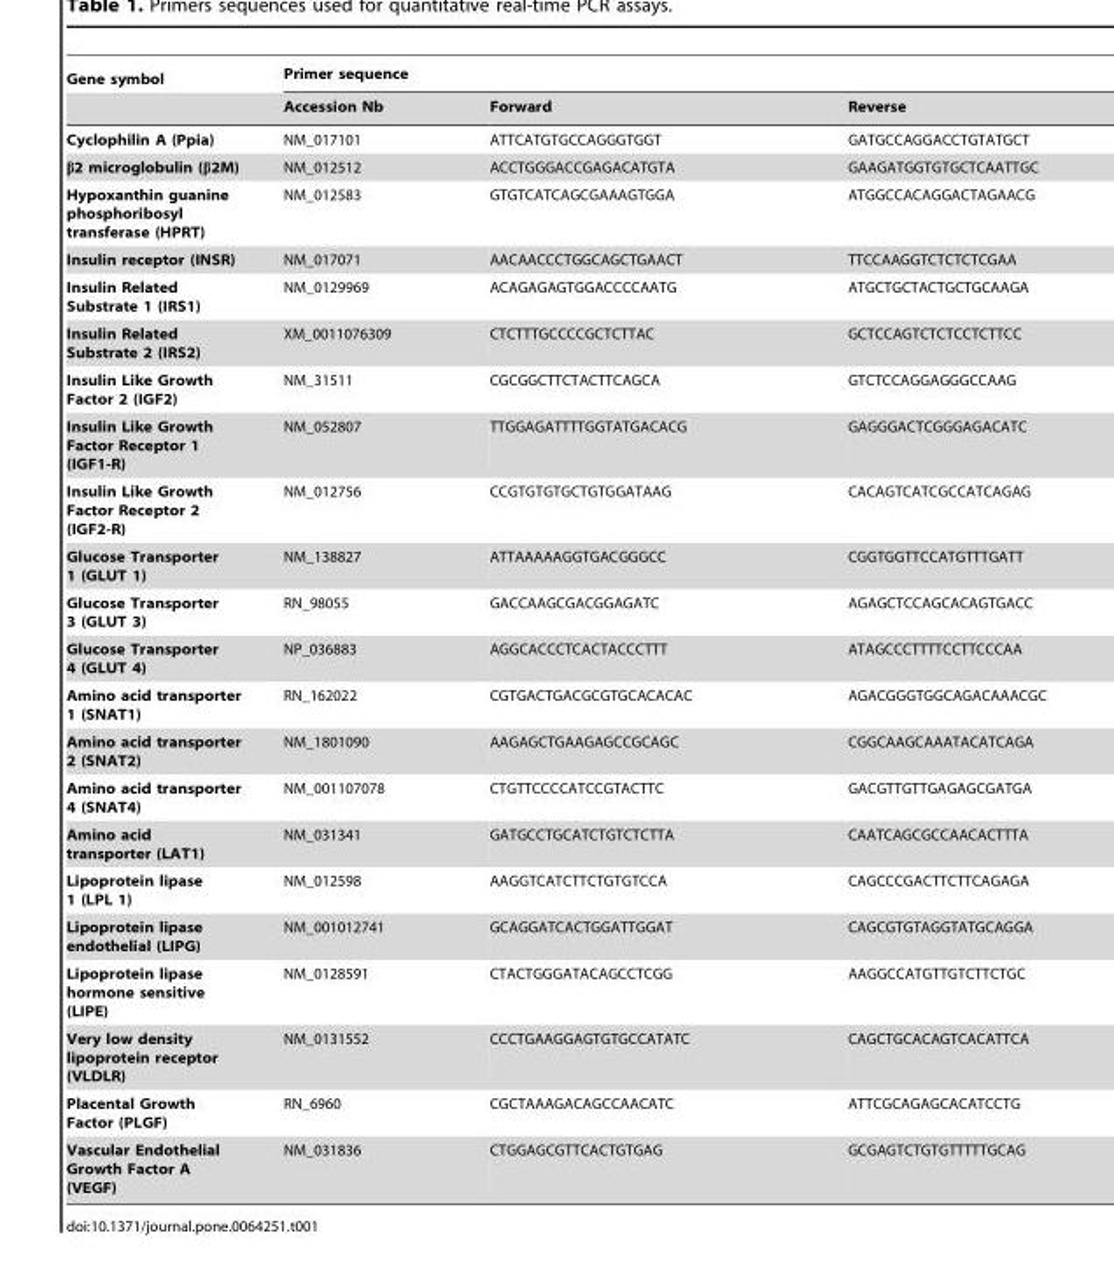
<table><thead><tr><td rowspan="2">Gene symbol</td><td colspan="3">Primer sequence</td></tr><tr><td>Accession Nb</td><td>Forward</td><td>Reverse</td></tr></thead><tbody><tr><td>Cyclophilin A (Ppia)</td><td>NM_017101</td><td>ATTCATGTGCCAGGGTGGT</td><td>GATGCCAGGACCTGTATGCT</td></tr><tr><td>β2 microglobulin (β2M)</td><td>NM_012512</td><td>ACCTGGGACCGAGACATGTA</td><td>GAAGATGGTGTGCTCAATTGC</td></tr><tr><td>Hypoxanthin guanine phosphoribosyl transferase (HPRT)</td><td>NM_012583</td><td>GTGTCATCAGCGAAAGTGGA</td><td>ATGGCCACAGGACTAGAACG</td></tr><tr><td>Insulin receptor (INSR)</td><td>NM_017071</td><td>AACAACCCTGGCAGCTGAACT</td><td>TTCCAAGGTCTCTCTCGAA</td></tr><tr><td>Insulin Related Substrate 1 (IRS1)</td><td>NM_0129969</td><td>ACAGAGAGTGGACCCCAATG</td><td>ATGCTGCTACTGCTGCAAGA</td></tr><tr><td>Insulin Related Substrate 2 (IRS2)</td><td>XM_0011076309</td><td>CTCTTTGCCCCGCTCTTAC</td><td>GCTCCAGTCTCTCCTCTTCC</td></tr><tr><td>Insulin Like Growth Factor 2 (IGF2)</td><td>NM_31511</td><td>CGCGGCTTCTACTTCAGCA</td><td>GTCTCCAGGAGGGCCAAG</td></tr><tr><td>Insulin Like Growth Factor Receptor 1 (IGF1-R)</td><td>NM_052807</td><td>TTGGAGATTTTGGTATGACACG</td><td>GAGGGACTCGGGAGACATC</td></tr><tr><td>Insulin Like Growth Factor Receptor 2 (IGF2-R)</td><td>NM_012756</td><td>CCGTGTGTGCTGTGGATAAG</td><td>CACAGTCATCGCCATCAGAG</td></tr><tr><td>Glucose Transporter 1 (GLUT 1)</td><td>NM_138827</td><td>ATTAAAAAGGTGACGGGCC</td><td>CGGTGGTTCCATGTTTGATT</td></tr><tr><td>Glucose Transporter 3 (GLUT 3)</td><td>RN_98055</td><td>GACCAAGCGACGGAGATC</td><td>AGAGCTCCAGCACAGTGACC</td></tr><tr><td>Glucose Transporter 4 (GLUT 4)</td><td>NP_036883</td><td>AGGCACCCTCACTACCCTTT</td><td>ATAGCCCTTTTCCTTCCCAA</td></tr><tr><td>Amino acid transporter 1 (SNAT1)</td><td>RN_162022</td><td>CGTGACTGACGCGTGCACACAC</td><td>AGACGGGTGGCAGACAAACGC</td></tr><tr><td>Amino acid transporter 2 (SNAT2)</td><td>NM_1801090</td><td>AAGAGCTGAAGAGCCGCAGC</td><td>CGGCAAGCAAATACATCAGA</td></tr><tr><td>Amino acid transporter 4 (SNAT4)</td><td>NM_001107078</td><td>CTGTTCCCCATCCGTACTTC</td><td>GACGTTGTTGAGAGCGATGA</td></tr><tr><td>Amino acid transporter (LAT1)</td><td>NM_031341</td><td>GATGCCTGCATCTGTCTCTTA</td><td>CAATCAGCGCCAACACTTTA</td></tr><tr><td>Lipoprotein lipase 1 (LPL 1)</td><td>NM_012598</td><td>AAGGTCATCTTCTGTGTCCA</td><td>CAGCCCGACTTCTTCAGAGA</td></tr><tr><td>Lipoprotein lipase endothelial (LIPG)</td><td>NM_001012741</td><td>GCAGGATCACTGGATTGGAT</td><td>CAGCGTGTAGGTATGCAGGA</td></tr><tr><td>Lipoprotein lipase hormone sensitive (LIPE)</td><td>NM_0128591</td><td>CTACTGGGATACAGCCTCGG</td><td>AAGGCCATGTTGTCTTCTGC</td></tr><tr><td>Very low density lipoprotein receptor (VLDLR)</td><td>NM_0131552</td><td>CCCTGAAGGAGTGTGCCATATC</td><td>CAGCTGCACAGTCACATTCA</td></tr><tr><td>Placental Growth Factor (PLGF)</td><td>RN_6960</td><td>CGCTAAAGACAGCCAACATC</td><td>ATTCGCAGAGCACATCCTG</td></tr><tr><td>Vascular Endothelial Growth Factor A (VEGF)</td><td>NM_031836</td><td>CTGGAGCGTTCACTGTGAG</td><td>GCGAGTCTGTGTTTTTGCAG</td></tr></tbody></table>